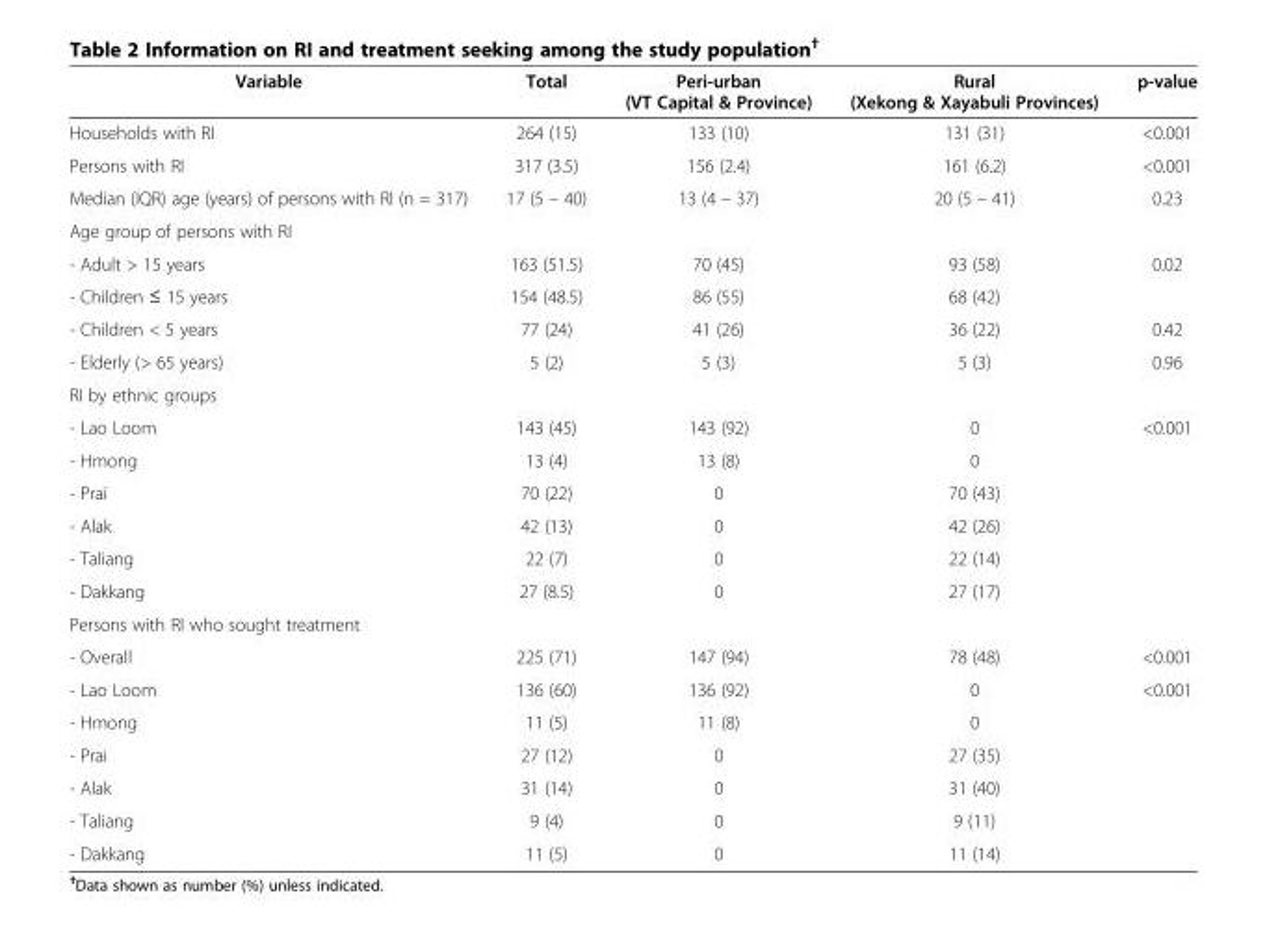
<table><thead><tr><td>Variable</td><td>Total</td><td>Peri-urban (VT Capital &amp; Province)</td><td>Rural (Xekong &amp; Xayabuli Provinces)</td><td>p-value</td></tr></thead><tbody><tr><td>Households with RI</td><td>264 (15)</td><td>133 (10)</td><td>131 (31)</td><td>&lt;0.001</td></tr><tr><td>Persons with RI</td><td>317 (3.5)</td><td>156 (2.4)</td><td>161 (6.2)</td><td>&lt;0.001</td></tr><tr><td>Median (IQR) age (years) of persons with RI (n = 317)</td><td>17 (5 – 40)</td><td>13 (4 – 37)</td><td>20 (5 – 41)</td><td>0.23</td></tr><tr><td colspan="5">Age group of persons with RI</td></tr><tr><td>- Adult &gt; 15 years</td><td>163 (51.5)</td><td>70 (45)</td><td>93 (58)</td><td>0.02</td></tr><tr><td>- Children ≤ 15 years</td><td>154 (48.5)</td><td>86 (55)</td><td>68 (42)</td><td></td></tr><tr><td>- Children &lt; 5 years</td><td>77 (24)</td><td>41 (26)</td><td>36 (22)</td><td>0.42</td></tr><tr><td>- Elderly (&gt; 65 years)</td><td>5 (2)</td><td>5 (3)</td><td>5 (3)</td><td>0.96</td></tr><tr><td colspan="5">RI by ethnic groups</td></tr><tr><td>- Lao Loom</td><td>143 (45)</td><td>143 (92)</td><td>0</td><td rowspan="6">&lt;0.001</td></tr><tr><td>- Hmong</td><td>13 (4)</td><td>13 (8)</td><td>0</td></tr><tr><td>- Prai</td><td>70 (22)</td><td>0</td><td>70 (43)</td></tr><tr><td>- Alak</td><td>42 (13)</td><td>0</td><td>42 (26)</td></tr><tr><td>- Taliang</td><td>22 (7)</td><td>0</td><td>22 (14)</td></tr><tr><td>- Dakkang</td><td>27 (8.5)</td><td>0</td><td>27 (17)</td></tr><tr><td colspan="5">Persons with RI who sought treatment</td></tr><tr><td>- Overall</td><td>225 (71)</td><td>147 (94)</td><td>78 (48)</td><td>&lt;0.001</td></tr><tr><td>- Lao Loom</td><td>136 (60)</td><td>136 (92)</td><td>0</td><td>&lt;0.001</td></tr><tr><td>- Hmong</td><td>11 (5)</td><td>11 (8)</td><td>0</td><td></td></tr><tr><td>- Prai</td><td>27 (12)</td><td>0</td><td>27 (35)</td><td></td></tr><tr><td>- Alak</td><td>31 (14)</td><td>0</td><td>31 (40)</td><td></td></tr><tr><td>- Taliang</td><td>9 (4)</td><td>0</td><td>9 (11)</td><td></td></tr><tr><td>- Dakkang</td><td>11 (5)</td><td>0</td><td>11 (14)</td><td></td></tr></tbody></table>